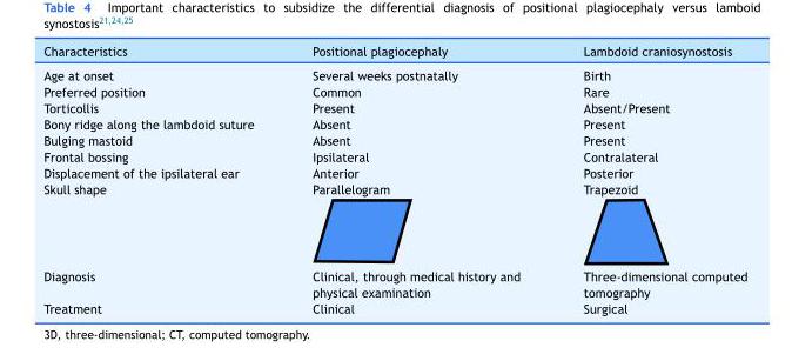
<table><thead><tr><td>Characteristics</td><td>Positional plagiocephaly</td><td>Lambdoid craniosynostosis</td></tr></thead><tbody><tr><td>Age at onset</td><td>Several weeks postnatally</td><td>Birth</td></tr><tr><td>Preferred position</td><td>Common</td><td>Rare</td></tr><tr><td>Torticollis</td><td>Present</td><td>Absent/Present</td></tr><tr><td>Bony ridge along the lambdoid suture</td><td>Absent</td><td>Present</td></tr><tr><td>Bulging mastoid</td><td>Absent</td><td>Present</td></tr><tr><td>Frontal bossing</td><td>Ipsilateral</td><td>Contralateral</td></tr><tr><td>Displacement of the ipsilateral ear</td><td>Anterior</td><td>Posterior</td></tr><tr><td>Skull shape</td><td>Parallelogram</td><td>Trapezoid</td></tr><tr><td>Diagnosis</td><td>Clinical, through medical history and physical examination</td><td>Three-dimensional computed tomography</td></tr><tr><td>Treatment</td><td>Clinical</td><td>Surgical</td></tr></tbody></table>